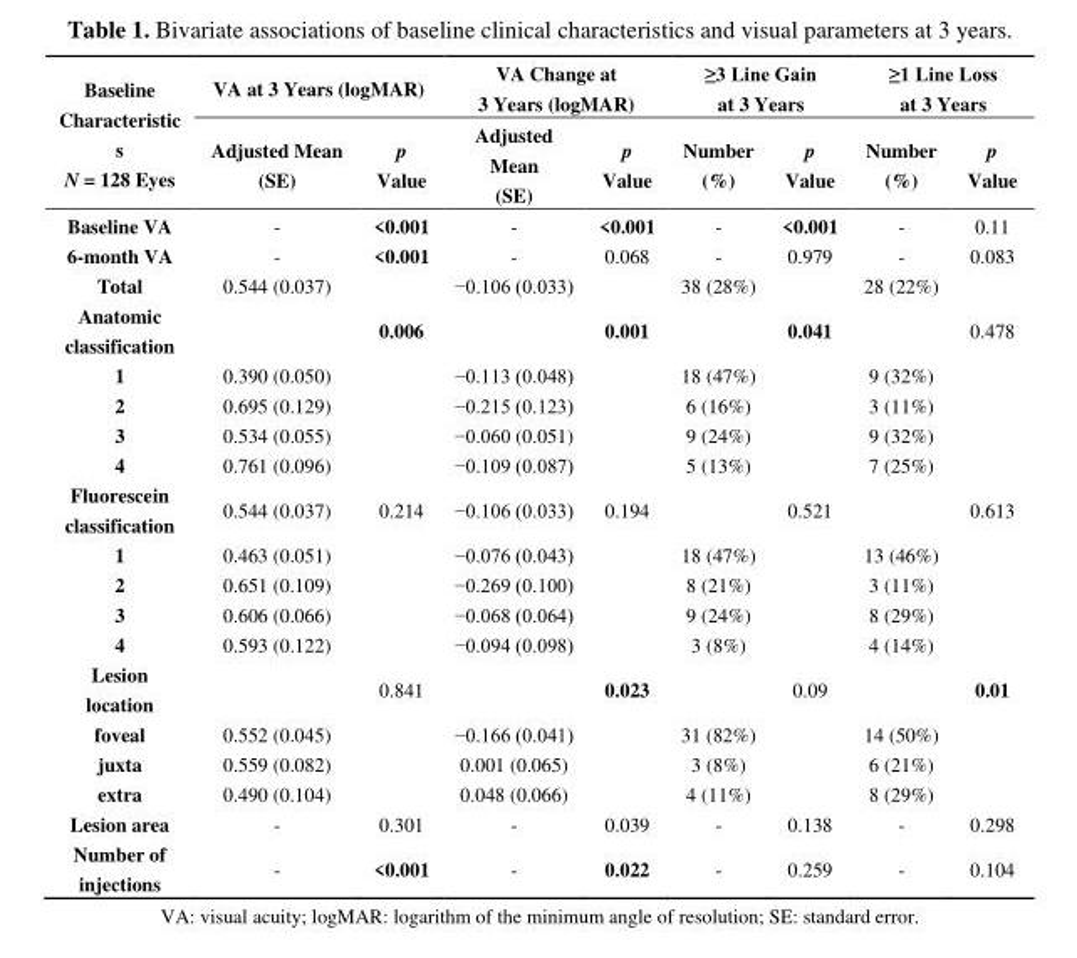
<table><thead><tr><td rowspan="2">Baseline Characteristic s N = 128 Eyes</td><td colspan="2">VA at 3 Years (logMAR)</td><td colspan="2">VA Change at 3 Years (logMAR)</td><td colspan="2">≥3 Line Gain at 3 Years</td><td colspan="2">≥1 Line Loss at 3 Years</td></tr><tr><td>Adjusted Mean (SE)</td><td>p Value</td><td>Adjusted Mean (SE)</td><td>p Value</td><td>Number (%)</td><td>p Value</td><td>Number (%)</td><td>p Value</td></tr></thead><tbody><tr><td>Baseline VA</td><td>-</td><td>&lt;0.001</td><td>-</td><td>&lt;0.001</td><td>-</td><td>&lt;0.001</td><td>-</td><td>0.11</td></tr><tr><td>6-month VA</td><td>-</td><td>&lt;0.001</td><td>-</td><td>0.068</td><td>-</td><td>0.979</td><td>-</td><td>0.083</td></tr><tr><td>Total</td><td>0.544 (0.037)</td><td></td><td>−0.106 (0.033)</td><td></td><td>38 (28%)</td><td></td><td>28 (22%)</td><td></td></tr><tr><td>Anatomic classification</td><td></td><td>0.006</td><td></td><td>0.001</td><td></td><td>0.041</td><td></td><td>0.478</td></tr><tr><td>1</td><td>0.390 (0.050)</td><td></td><td>−0.113 (0.048)</td><td></td><td>18 (47%)</td><td></td><td>9 (32%)</td><td></td></tr><tr><td>2</td><td>0.695 (0.129)</td><td></td><td>−0.215 (0.123)</td><td></td><td>6 (16%)</td><td></td><td>3 (11%)</td><td></td></tr><tr><td>3</td><td>0.534 (0.055)</td><td></td><td>−0.060 (0.051)</td><td></td><td>9 (24%)</td><td></td><td>9 (32%)</td><td></td></tr><tr><td>4</td><td>0.761 (0.096)</td><td></td><td>−0.109 (0.087)</td><td></td><td>5 (13%)</td><td></td><td>7 (25%)</td><td></td></tr><tr><td>Fluorescein classification</td><td>0.544 (0.037)</td><td>0.214</td><td>−0.106 (0.033)</td><td>0.194</td><td></td><td>0.521</td><td></td><td>0.613</td></tr><tr><td>1</td><td>0.463 (0.051)</td><td></td><td>−0.076 (0.043)</td><td></td><td>18 (47%)</td><td></td><td>13 (46%)</td><td></td></tr><tr><td>2</td><td>0.651 (0.109)</td><td></td><td>−0.269 (0.100)</td><td></td><td>8 (21%)</td><td></td><td>3 (11%)</td><td></td></tr><tr><td>3</td><td>0.606 (0.066)</td><td></td><td>−0.068 (0.064)</td><td></td><td>9 (24%)</td><td></td><td>8 (29%)</td><td></td></tr><tr><td>4</td><td>0.593 (0.122)</td><td></td><td>−0.094 (0.098)</td><td></td><td>3 (8%)</td><td></td><td>4 (14%)</td><td></td></tr><tr><td>Lesion location</td><td></td><td>0.841</td><td></td><td>0.023</td><td></td><td>0.09</td><td></td><td>0.01</td></tr><tr><td>foveal</td><td>0.552 (0.045)</td><td></td><td>−0.166 (0.041)</td><td></td><td>31 (82%)</td><td></td><td>14 (50%)</td><td></td></tr><tr><td>juxta</td><td>0.559 (0.082)</td><td></td><td>0.001 (0.065)</td><td></td><td>3 (8%)</td><td></td><td>6 (21%)</td><td></td></tr><tr><td>extra</td><td>0.490 (0.104)</td><td></td><td>0.048 (0.066)</td><td></td><td>4 (11%)</td><td></td><td>8 (29%)</td><td></td></tr><tr><td>Lesion area</td><td>-</td><td>0.301</td><td>-</td><td>0.039</td><td>-</td><td>0.138</td><td>-</td><td>0.298</td></tr><tr><td>Number of injections</td><td>-</td><td>&lt;0.001</td><td>-</td><td>0.022</td><td>-</td><td>0.259</td><td>-</td><td>0.104</td></tr></tbody></table>